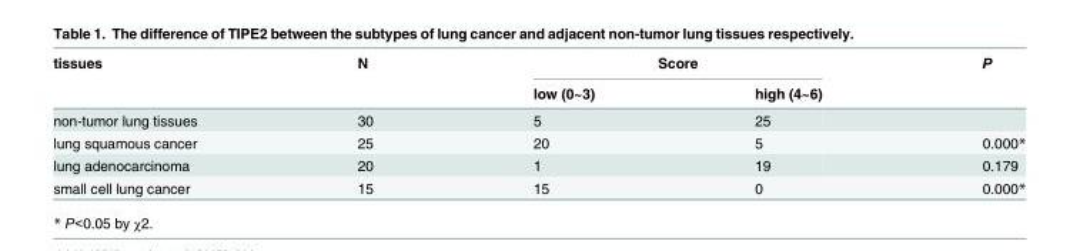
<table><thead><tr><td rowspan="2">tissues</td><td rowspan="2">N</td><td colspan="2">Score</td><td rowspan="2">P</td></tr><tr><td>low (0~3)</td><td>high (4~6)</td></tr></thead><tbody><tr><td>non-tumor lung tissues</td><td>30</td><td>5</td><td>25</td><td></td></tr><tr><td>lung squamous cancer</td><td>25</td><td>20</td><td>5</td><td>0.000*</td></tr><tr><td>lung adenocarcinoma</td><td>20</td><td>1</td><td>19</td><td>0.179</td></tr><tr><td>small cell lung cancer</td><td>15</td><td>15</td><td>0</td><td>0.000*</td></tr></tbody></table>